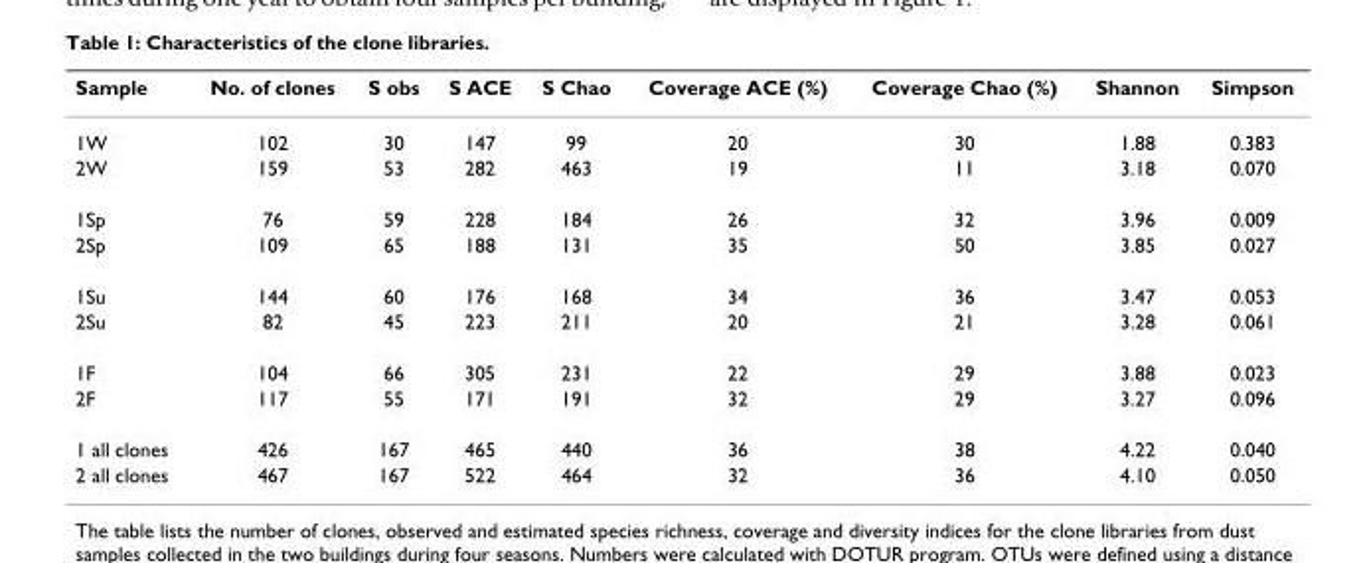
<table><thead><tr><td>Sample</td><td>No. of clones</td><td>S obs</td><td>S ACE</td><td>S Chao</td><td>Coverage ACE (%)</td><td>Coverage Chao (%)</td><td>Shannon</td><td>Simpson</td></tr></thead><tbody><tr><td>1W</td><td>102</td><td>30</td><td>147</td><td>99</td><td>20</td><td>30</td><td>1.88</td><td>0.383</td></tr><tr><td>2W</td><td>159</td><td>53</td><td>282</td><td>463</td><td>19</td><td>11</td><td>3.18</td><td>0.070</td></tr><tr><td>1Sp</td><td>76</td><td>59</td><td>228</td><td>184</td><td>26</td><td>32</td><td>3.96</td><td>0.009</td></tr><tr><td>2Sp</td><td>109</td><td>65</td><td>188</td><td>131</td><td>35</td><td>50</td><td>3.85</td><td>0.027</td></tr><tr><td>1Su</td><td>144</td><td>60</td><td>176</td><td>168</td><td>34</td><td>36</td><td>3.47</td><td>0.053</td></tr><tr><td>2Su</td><td>82</td><td>45</td><td>223</td><td>211</td><td>20</td><td>21</td><td>3.28</td><td>0.061</td></tr><tr><td>1F</td><td>104</td><td>66</td><td>305</td><td>231</td><td>22</td><td>29</td><td>3.88</td><td>0.023</td></tr><tr><td>2F</td><td>117</td><td>55</td><td>171</td><td>191</td><td>32</td><td>29</td><td>3.27</td><td>0.096</td></tr><tr><td>1 all clones</td><td>426</td><td>167</td><td>465</td><td>440</td><td>36</td><td>38</td><td>4.22</td><td>0.040</td></tr><tr><td>2 all clones</td><td>467</td><td>167</td><td>522</td><td>464</td><td>32</td><td>36</td><td>4.10</td><td>0.050</td></tr></tbody></table>